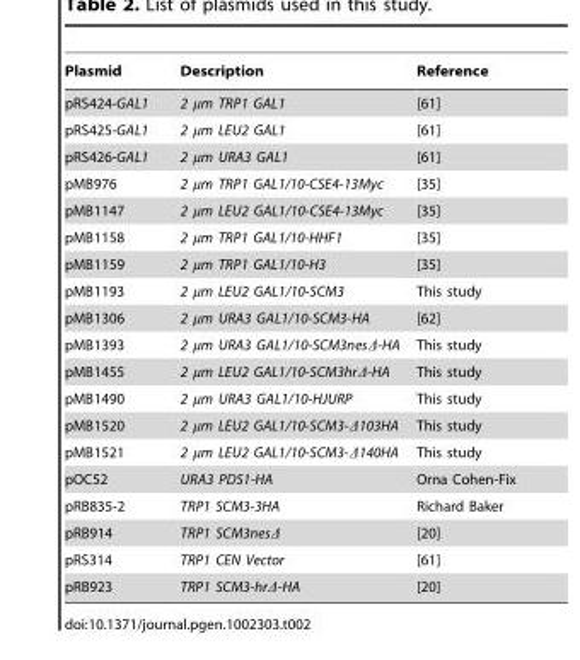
<table><thead><tr><td>Plasmid</td><td>Description</td><td>Reference</td></tr></thead><tbody><tr><td>pRS424-GAL1</td><td>2 µm TRP1 GAL1</td><td>[61]</td></tr><tr><td>pRS425-GAL1</td><td>2 µm LEU2 GAL1</td><td>[61]</td></tr><tr><td>pRS426-GAL1</td><td>2 µm URA3 GAL1</td><td>[61]</td></tr><tr><td>pMB976</td><td>2 µm TRP1 GAL1/10-CSE4-13Myc</td><td>[35]</td></tr><tr><td>pMB1147</td><td>2 µm LEU2 GAL1/10-CSE4-13Myc</td><td>[35]</td></tr><tr><td>pMB1158</td><td>2 µm TRP1 GAL1/10-HHF1</td><td>[35]</td></tr><tr><td>pMB1159</td><td>2 µm TRP1 GAL1/10-H3</td><td>[35]</td></tr><tr><td>pMB1193</td><td>2 µm LEU2 GAL1/10-SCM3</td><td>This study</td></tr><tr><td>pMB1306</td><td>2 µm URA3 GAL1/10-SCM3-HA</td><td>[62]</td></tr><tr><td>pMB1393</td><td>2 µm URA3 GAL1/10-SCM3nesΔ-HA</td><td>This study</td></tr><tr><td>pMB1455</td><td>2 µm LEU2 GAL1/10-SCM3hrΔ-HA</td><td>This study</td></tr><tr><td>pMB1490</td><td>2 µm URA3 GAL1/10-HJURP</td><td>This study</td></tr><tr><td>pMB1520</td><td>2 µm LEU2 GAL1/10-SCM3-Δ103HA</td><td>This study</td></tr><tr><td>pMB1521</td><td>2 µm LEU2 GAL1/10-SCM3-Δ140HA</td><td>This study</td></tr><tr><td>pOC52</td><td>URA3 PDS1-HA</td><td>Orna Cohen-Fix</td></tr><tr><td>pRB835-2</td><td>TRP1 SCM3-3HA</td><td>Richard Baker</td></tr><tr><td>pRB914</td><td>TRP1 SCM3nesΔ</td><td>[20]</td></tr><tr><td>pRS314</td><td>TRP1 CEN Vector</td><td>[61]</td></tr><tr><td>pRB923</td><td>TRP1 SCM3-hrΔ-HA</td><td>[20]</td></tr></tbody></table>